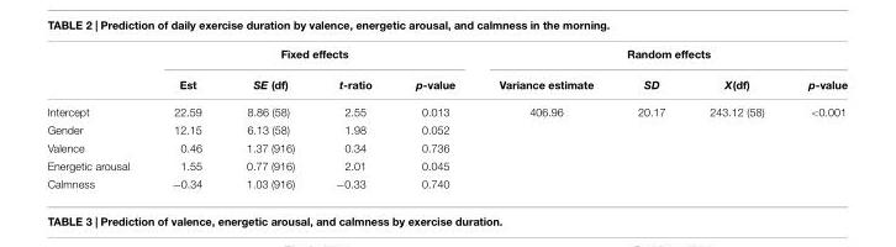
<table><thead><tr><td rowspan="2"></td><td colspan="4">Fixed effects</td><td colspan="4">Random effects</td></tr><tr><td>Est</td><td>SE (df)</td><td>t-ratio</td><td>p-value</td><td>Variance estimate</td><td>SD</td><td>X(df)</td><td>p-value</td></tr></thead><tbody><tr><td>Intercept</td><td>22.59</td><td>8.86 (58)</td><td>2.55</td><td>0.013</td><td>406.96</td><td>20.17</td><td>243.12 (58)</td><td>&lt;0.001</td></tr><tr><td>Gender</td><td>12.15</td><td>6.13 (58)</td><td>1.98</td><td>0.052</td><td></td><td></td><td></td><td></td></tr><tr><td>Valence</td><td>0.46</td><td>1.37 (916)</td><td>0.34</td><td>0.736</td><td></td><td></td><td></td><td></td></tr><tr><td>Energetic arousal</td><td>1.55</td><td>0.77 (916)</td><td>2.01</td><td>0.045</td><td></td><td></td><td></td><td></td></tr><tr><td>Calmness</td><td>−0.34</td><td>1.03 (916)</td><td>−0.33</td><td>0.740</td><td></td><td></td><td></td><td></td></tr></tbody></table>